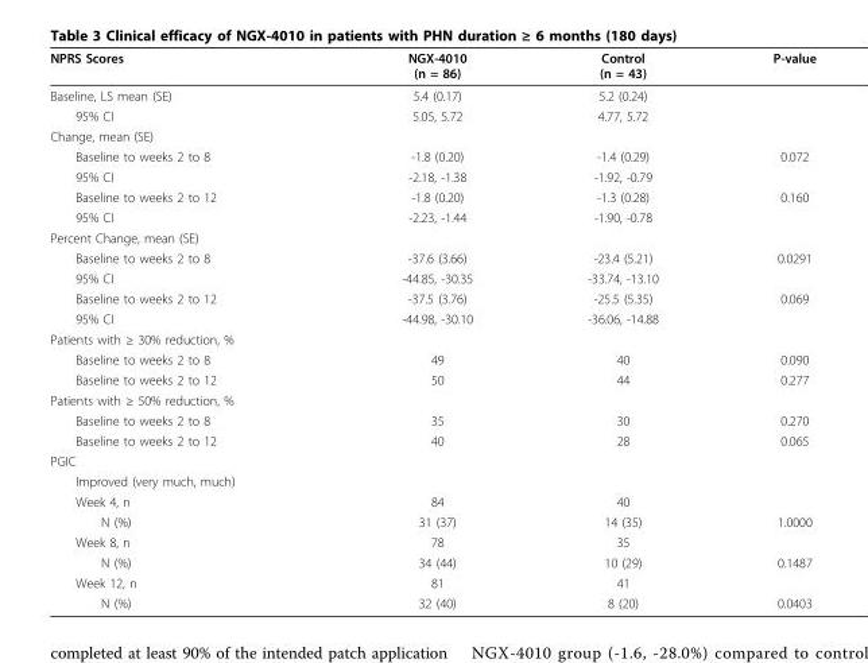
<table><thead><tr><td>NPRS Scores</td><td>NGX-4010 (n = 86)</td><td>Control (n = 43)</td><td>P-value</td></tr></thead><tbody><tr><td>Baseline, LS mean (SE)</td><td>5.4 (0.17)</td><td>5.2 (0.24)</td><td></td></tr><tr><td>95% CI</td><td>5.05, 5.72</td><td>4.77, 5.72</td><td></td></tr><tr><td colspan="4">Change, mean (SE)</td></tr><tr><td>Baseline to weeks 2 to 8</td><td>-1.8 (0.20)</td><td>-1.4 (0.29)</td><td>0.072</td></tr><tr><td>95% CI</td><td>-2.18, -1.38</td><td>-1.92, -0.79</td><td></td></tr><tr><td>Baseline to weeks 2 to 12</td><td>-1.8 (0.20)</td><td>-1.3 (0.28)</td><td>0.160</td></tr><tr><td>95% CI</td><td>-2.23, -1.44</td><td>-1.90, -0.78</td><td></td></tr><tr><td colspan="4">Percent Change, mean (SE)</td></tr><tr><td>Baseline to weeks 2 to 8</td><td>-37.6 (3.66)</td><td>-23.4 (5.21)</td><td>0.0291</td></tr><tr><td>95% CI</td><td>-44.85, -30.35</td><td>-33.74, -13.10</td><td></td></tr><tr><td>Baseline to weeks 2 to 12</td><td>-37.5 (3.76)</td><td>-25.5 (5.35)</td><td>0.069</td></tr><tr><td>95% CI</td><td>-44.98, -30.10</td><td>-36.06, -14.88</td><td></td></tr><tr><td colspan="4">Patients with ≥ 30% reduction, %</td></tr><tr><td>Baseline to weeks 2 to 8</td><td>49</td><td>40</td><td>0.090</td></tr><tr><td>Baseline to weeks 2 to 12</td><td>50</td><td>44</td><td>0.277</td></tr><tr><td colspan="4">Patients with ≥ 50% reduction, %</td></tr><tr><td>Baseline to weeks 2 to 8</td><td>35</td><td>30</td><td>0.270</td></tr><tr><td>Baseline to weeks 2 to 12</td><td>40</td><td>28</td><td>0.065</td></tr><tr><td colspan="4">PGIC</td></tr><tr><td colspan="4">Improved (very much, much)</td></tr><tr><td>Week 4, n</td><td>84</td><td>40</td><td></td></tr><tr><td>N (%)</td><td>31 (37)</td><td>14 (35)</td><td>1.0000</td></tr><tr><td>Week 8, n</td><td>78</td><td>35</td><td></td></tr><tr><td>N (%)</td><td>34 (44)</td><td>10 (29)</td><td>0.1487</td></tr><tr><td>Week 12, n</td><td>81</td><td>41</td><td></td></tr><tr><td>N (%)</td><td>32 (40)</td><td>8 (20)</td><td>0.0403</td></tr></tbody></table>